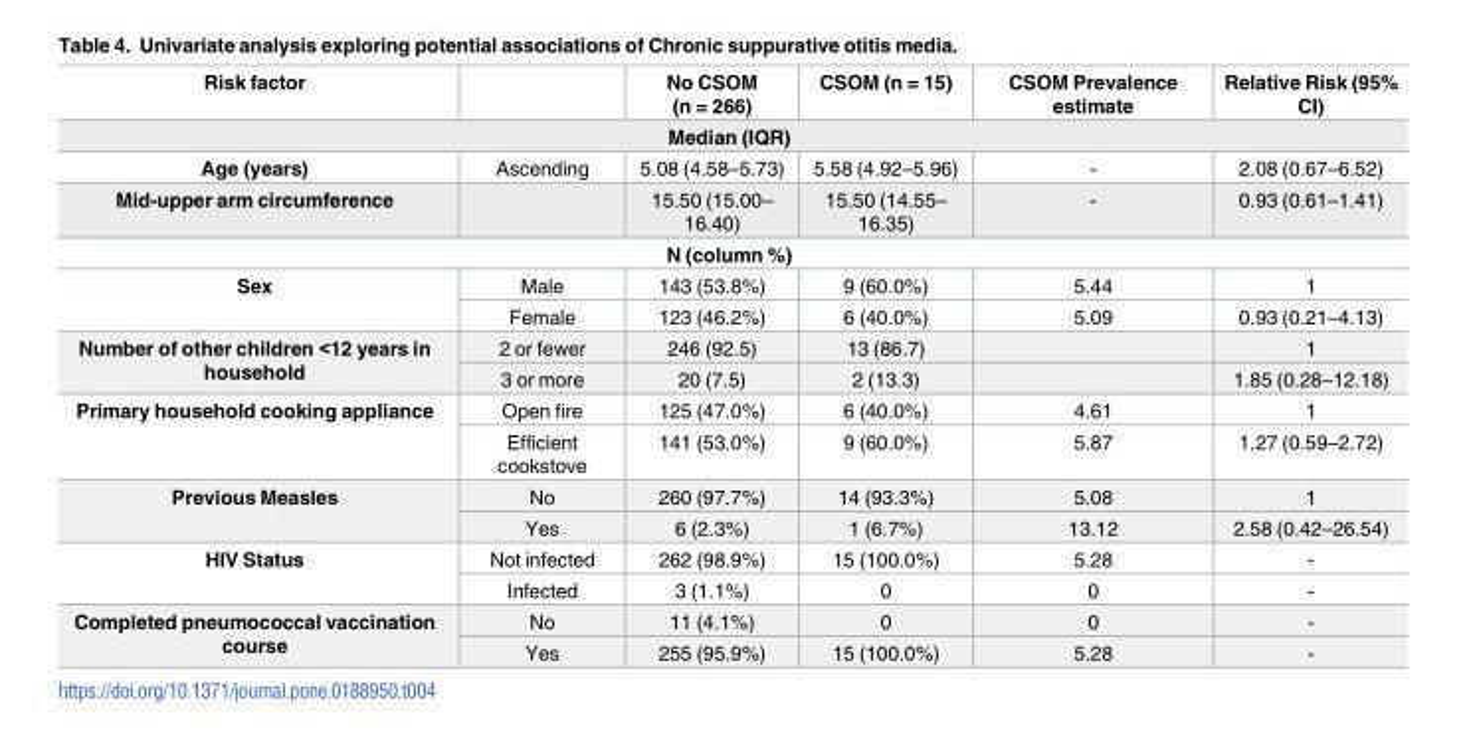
<table><thead><tr><td>Risk factor</td><td></td><td>No CSOM (n = 266)</td><td>CSOM (n = 15)</td><td>CSOM Prevalence estimate</td><td>Relative Risk (95% CI)</td></tr></thead><tbody><tr><td colspan="6">Median (IQR)</td></tr><tr><td>Age (years)</td><td>Ascending</td><td>5.08 (4.58–5.73)</td><td>5.58 (4.92–5.96)</td><td>-</td><td>2.08 (0.67–6.52)</td></tr><tr><td>Mid-upper arm circumference</td><td></td><td>15.50 (15.00– 16.40)</td><td>15.50 (14.55– 16.35)</td><td>-</td><td>0.93 (0.61–1.41)</td></tr><tr><td colspan="6">N (column %)</td></tr><tr><td rowspan="2">Sex</td><td>Male</td><td>143 (53.8%)</td><td>9 (60.0%)</td><td>5.44</td><td>1</td></tr><tr><td>Female</td><td>123 (46.2%)</td><td>6 (40.0%)</td><td>5.09</td><td>0.93 (0.21–4.13)</td></tr><tr><td rowspan="2">Number of other children &lt;12 years in household</td><td>2 or fewer</td><td>246 (92.5)</td><td>13 (86.7)</td><td></td><td>1</td></tr><tr><td>3 or more</td><td>20 (7.5)</td><td>2 (13.3)</td><td></td><td>1.85 (0.28–12.18)</td></tr><tr><td rowspan="2">Primary household cooking appliance</td><td>Open fire</td><td>125 (47.0%)</td><td>6 (40.0%)</td><td>4.61</td><td>1</td></tr><tr><td>Efficient cookstove</td><td>141 (53.0%)</td><td>9 (60.0%)</td><td>5.87</td><td>1.27 (0.59–2.72)</td></tr><tr><td rowspan="2">Previous Measles</td><td>No</td><td>260 (97.7%)</td><td>14 (93.3%)</td><td>5.08</td><td>1</td></tr><tr><td>Yes</td><td>6 (2.3%)</td><td>1 (6.7%)</td><td>13.12</td><td>2.58 (0.42–26.54)</td></tr><tr><td rowspan="2">HIV Status</td><td>Not infected</td><td>262 (98.9%)</td><td>15 (100.0%)</td><td>5.28</td><td>-</td></tr><tr><td>Infected</td><td>3 (1.1%)</td><td>0</td><td>0</td><td>-</td></tr><tr><td rowspan="2">Completed pneumococcal vaccination course</td><td>No</td><td>11 (4.1%)</td><td>0</td><td>0</td><td>-</td></tr><tr><td>Yes</td><td>255 (95.9%)</td><td>15 (100.0%)</td><td>5.28</td><td>-</td></tr></tbody></table>